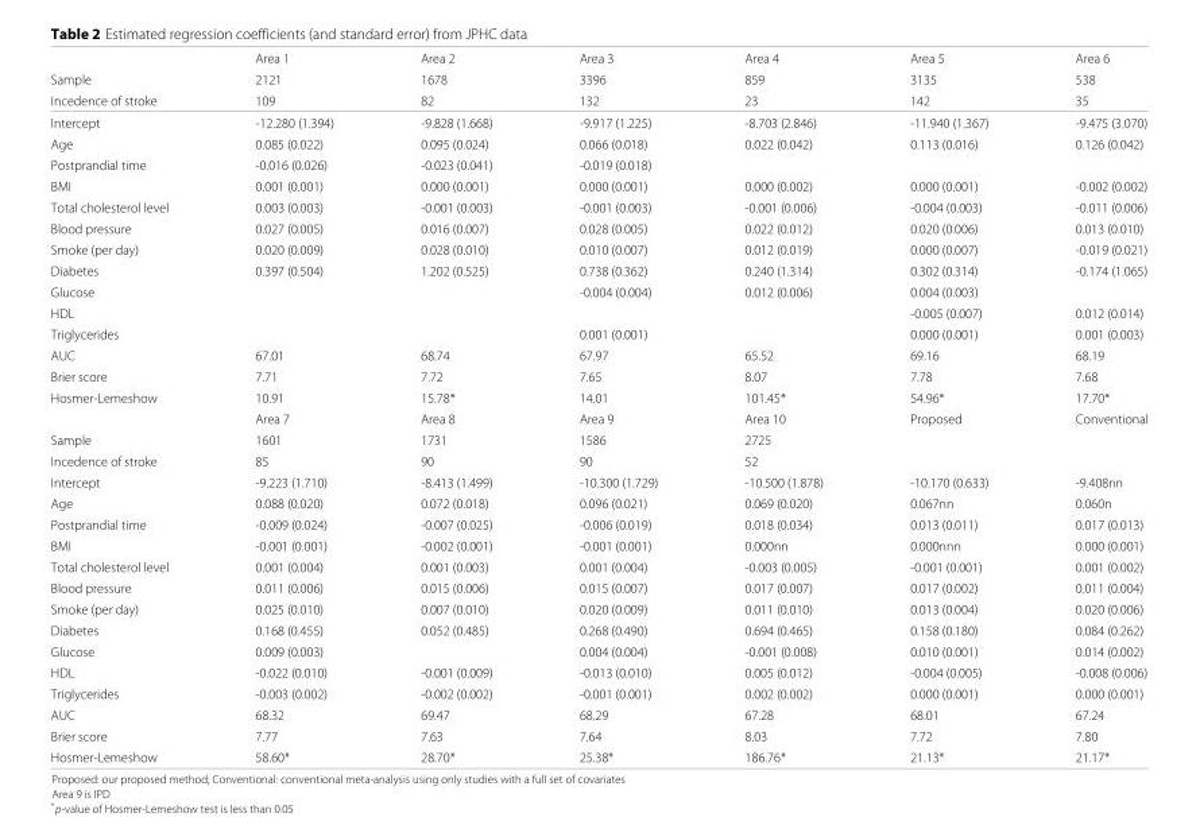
<table><thead><tr><td rowspan="3">Sample Incedence of stroke</td><td rowspan="3">Area 1 2121 109</td><td rowspan="3">Area 2 1678 82</td><td rowspan="3">Area 3 3396 132</td><td rowspan="3">Area 4 859 23</td><td rowspan="3">Area 5 3135 142</td><td rowspan="3">Area 6 538 35</td></tr><tr></tr><tr></tr></thead><tbody><tr><td>Intercept</td><td>-12.280 (1.394)</td><td>-9.828 (1.668)</td><td>-9.917 (1.225)</td><td>-8.703 (2.846)</td><td>-11.940 (1.367)</td><td>-9.475 (3.070)</td></tr><tr><td>Age</td><td>0.085 (0.022)</td><td>0.095 (0.024)</td><td>0.066 (0.018)</td><td>0.022 (0.042)</td><td>0.113 (0.016)</td><td>0.126 (0.042)</td></tr><tr><td>Postprandial time</td><td>-0.016 (0.026)</td><td>-0.023 (0.041)</td><td>-0.019 (0.018)</td><td></td><td></td><td></td></tr><tr><td>BMI</td><td>0.001 (0.001)</td><td>0.000 (0.001)</td><td>0.000 (0.001)</td><td>0.000 (0.002)</td><td>0.000 (0.001)</td><td>-0.002 (0.002)</td></tr><tr><td>Total cholesterol level</td><td>0.003 (0.003)</td><td>-0.001 (0.003)</td><td>-0.001 (0.003)</td><td>-0.001 (0.006)</td><td>-0.004 (0.003)</td><td>-0.011 (0.006)</td></tr><tr><td>Blood pressure</td><td>0.027 (0.005)</td><td>0.016 (0.007)</td><td>0.028 (0.005)</td><td>0.022 (0.012)</td><td>0.020 (0.006)</td><td>0.013 (0.010)</td></tr><tr><td>Smoke (per day)</td><td>0.020 (0.009)</td><td>0.028 (0.010)</td><td>0.010 (0.007)</td><td>0.012 (0.019)</td><td>0.000 (0.007)</td><td>-0.019 (0.021)</td></tr><tr><td>Diabetes</td><td>0.397 (0.504)</td><td>1.202 (0.525)</td><td>0.738 (0.362)</td><td>0.240 (1.314)</td><td>0.302 (0.314)</td><td>-0.174 (1.065)</td></tr><tr><td>Glucose</td><td></td><td></td><td>-0.004 (0.004)</td><td>0.012 (0.006)</td><td>0.004 (0.003)</td><td></td></tr><tr><td>HDL</td><td></td><td></td><td></td><td></td><td>-0.005 (0.007)</td><td>0.012 (0.014)</td></tr><tr><td>Triglycerides</td><td></td><td></td><td>0.001 (0.001)</td><td></td><td>0.000 (0.001)</td><td>0.001 (0.003)</td></tr><tr><td>AUC</td><td>67.01</td><td>68.74</td><td>67.97</td><td>65.52</td><td>69.16</td><td>68.19</td></tr><tr><td>Brier score</td><td>7.71</td><td>7.72</td><td>7.65</td><td>8.07</td><td>7.78</td><td>7.68</td></tr><tr><td rowspan="2">Hosmer-Lemeshow</td><td>10.91</td><td>15.78*</td><td>14.01</td><td>101.45*</td><td>54.96*</td><td>17.70*</td></tr><tr><td>Area 7</td><td>Area 8</td><td>Area 9</td><td>Area 10</td><td>Proposed</td><td>Conventional</td></tr><tr><td>Sample</td><td>1601</td><td>1731</td><td>1586</td><td>2725</td><td></td><td></td></tr><tr><td>Incedence of stroke</td><td>85</td><td>90</td><td>90</td><td>52</td><td></td><td></td></tr><tr><td>Intercept</td><td>-9.223 (1.710)</td><td>-8.413 (1.499)</td><td>-10.300 (1.729)</td><td>-10.500 (1.878)</td><td>-10.170 (0.633)</td><td>-9.408nn</td></tr><tr><td>Age</td><td>0.088 (0.020)</td><td>0.072 (0.018)</td><td>0.096 (0.021)</td><td>0.069 (0.020)</td><td>0.067nn</td><td>0.060n</td></tr><tr><td>Postprandial time</td><td>-0.009 (0.024)</td><td>-0.007 (0.025)</td><td>-0.006 (0.019)</td><td>0.018 (0.034)</td><td>0.013 (0.011)</td><td>0.017 (0.013)</td></tr><tr><td>BMI</td><td>-0.001 (0.001)</td><td>-0.002 (0.001)</td><td>-0.001 (0.001)</td><td>0.000nn</td><td>0.000nnn</td><td>0.000 (0.001)</td></tr><tr><td>Total cholesterol level</td><td>0.001 (0.004)</td><td>0.001 (0.003)</td><td>0.001 (0.004)</td><td>-0.003 (0.005)</td><td>-0.001 (0.001)</td><td>0.001 (0.002)</td></tr><tr><td>Blood pressure</td><td>0.011 (0.006)</td><td>0.015 (0.006)</td><td>0.015 (0.007)</td><td>0.017 (0.007)</td><td>0.017 (0.002)</td><td>0.011 (0.004)</td></tr><tr><td>Smoke (per day)</td><td>0.025 (0.010)</td><td>0.007 (0.010)</td><td>0.020 (0.009)</td><td>0.011 (0.010)</td><td>0.013 (0.004)</td><td>0.020 (0.006)</td></tr><tr><td>Diabetes</td><td>0.168 (0.455)</td><td>0.052 (0.485)</td><td>0.268 (0.490)</td><td>0.694 (0.465)</td><td>0.158 (0.180)</td><td>0.084 (0.262)</td></tr><tr><td>Glucose</td><td>0.009 (0.003)</td><td></td><td>0.004 (0.004)</td><td>-0.001 (0.008)</td><td>0.010 (0.001)</td><td>0.014 (0.002)</td></tr><tr><td>HDL</td><td>-0.022 (0.010)</td><td>-0.001 (0.009)</td><td>-0.013 (0.010)</td><td>0.005 (0.012)</td><td>-0.004 (0.005)</td><td>-0.008 (0.006)</td></tr><tr><td>Triglycerides</td><td>-0.003 (0.002)</td><td>-0.002 (0.002)</td><td>-0.001 (0.001)</td><td>0.002 (0.002)</td><td>0.000 (0.001)</td><td>0.000 (0.001)</td></tr><tr><td>AUC</td><td>68.32</td><td>69.47</td><td>68.29</td><td>67.28</td><td>68.01</td><td>67.24</td></tr><tr><td>Brier score</td><td>7.77</td><td>7.63</td><td>7.64</td><td>8.03</td><td>7.72</td><td>7.80</td></tr><tr><td>Hosmer-Lemeshow</td><td>58.60*</td><td>28.70*</td><td>25.38*</td><td>186.76*</td><td>21.13*</td><td>21.17*</td></tr></tbody></table>